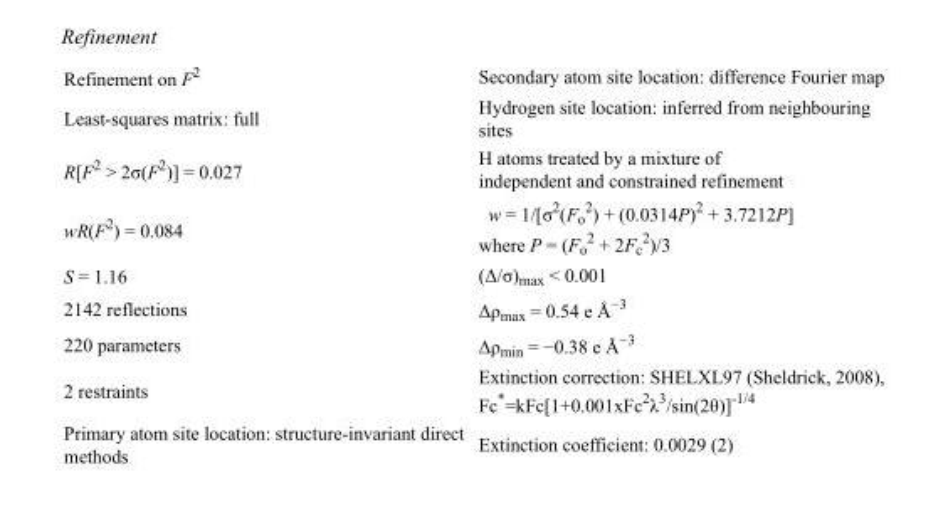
<table><tbody><tr><td>Refinement on F<sup>2</sup></td><td>Secondary atom site location: difference Fourier map</td></tr><tr><td>Least-squares matrix: full</td><td>Hydrogen site location: inferred from neighbouring sites</td></tr><tr><td>R[F<sup>2</sup> &gt; 2σ(F<sup>2</sup>)] = 0.027</td><td>H atoms treated by a mixture of independent and constrained refinement</td></tr><tr><td>wR(F<sup>2</sup>) = 0.084</td><td>w = 1/[σ<sup>2</sup>(F<sub>o</sub> <sup>2</sup>) + (0.0314P)<sup>2</sup> + 3.7212P] where P = (F<sub>o</sub> <sup>2</sup> + 2F<sub>c</sub> <sup>2</sup>)/3</td></tr><tr><td>S = 1.16</td><td>(Δ/σ)<sub>max</sub> &lt; 0.001</td></tr><tr><td>2142 reflections</td><td>Δρ<sub>max</sub> = 0.54 e Å<sup>−3</sup></td></tr><tr><td>220 parameters</td><td>Δρ<sub>min</sub> = −0.38 e Å<sup>−3</sup></td></tr><tr><td>2 restraints</td><td>Extinction correction: SHELXL97 (Sheldrick, 2008), Fc*=kFc[1+0.001xFc<sup>2</sup>λ<sup>3</sup>/sin(2θ)]<sup>-1/4</sup></td></tr><tr><td>Primary atom site location: structure-invariant direct methods</td><td>Extinction coefficient: 0.0029 (2)</td></tr></tbody></table>